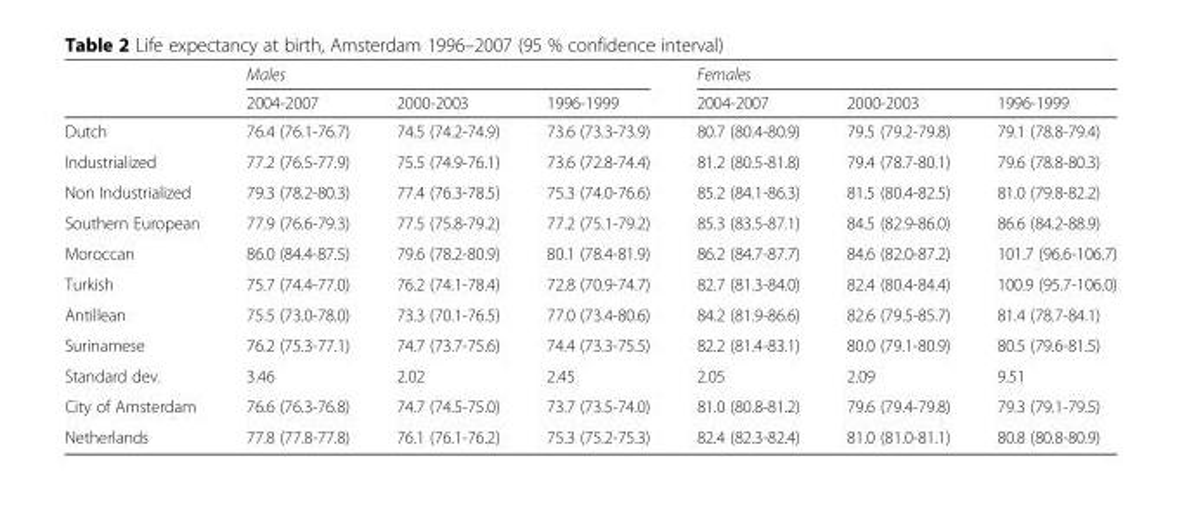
<table><thead><tr><td rowspan="2"></td><td colspan="3">Males</td><td colspan="3">Females</td></tr><tr><td>2004-2007</td><td>2000-2003</td><td>1996-1999</td><td>2004-2007</td><td>2000-2003</td><td>1996-1999</td></tr></thead><tbody><tr><td>Dutch</td><td>76.4 (76.1-76.7)</td><td>74.5 (74.2-74.9)</td><td>73.6 (73.3-73.9)</td><td>80.7 (80.4-80.9)</td><td>79.5 (79.2-79.8)</td><td>79.1 (78.8-79.4)</td></tr><tr><td>Industrialized</td><td>77.2 (76.5-77.9)</td><td>75.5 (74.9-76.1)</td><td>73.6 (72.8-74.4)</td><td>81.2 (80.5-81.8)</td><td>79.4 (78.7-80.1)</td><td>79.6 (78.8-80.3)</td></tr><tr><td>Non Industrialized</td><td>79.3 (78.2-80.3)</td><td>77.4 (76.3-78.5)</td><td>75.3 (74.0-76.6)</td><td>85.2 (84.1-86.3)</td><td>81.5 (80.4-82.5)</td><td>81.0 (79.8-82.2)</td></tr><tr><td>Southern European</td><td>77.9 (76.6-79.3)</td><td>77.5 (75.8-79.2)</td><td>77.2 (75.1-79.2)</td><td>85.3 (83.5-87.1)</td><td>84.5 (82.9-86.0)</td><td>86.6 (84.2-88.9)</td></tr><tr><td>Moroccan</td><td>86.0 (84.4-87.5)</td><td>79.6 (78.2-80.9)</td><td>80.1 (78.4-81.9)</td><td>86.2 (84.7-87.7)</td><td>84.6 (82.0-87.2)</td><td>101.7 (96.6-106.7)</td></tr><tr><td>Turkish</td><td>75.7 (74.4-77.0)</td><td>76.2 (74.1-78.4)</td><td>72.8 (70.9-74.7)</td><td>82.7 (81.3-84.0)</td><td>82.4 (80.4-84.4)</td><td>100.9 (95.7-106.0)</td></tr><tr><td>Antillean</td><td>75.5 (73.0-78.0)</td><td>73.3 (70.1-76.5)</td><td>77.0 (73.4-80.6)</td><td>84.2 (81.9-86.6)</td><td>82.6 (79.5-85.7)</td><td>81.4 (78.7-84.1)</td></tr><tr><td>Surinamese</td><td>76.2 (75.3-77.1)</td><td>74.7 (73.7-75.6)</td><td>74.4 (73.3-75.5)</td><td>82.2 (81.4-83.1)</td><td>80.0 (79.1-80.9)</td><td>80.5 (79.6-81.5)</td></tr><tr><td>Standard dev.</td><td>3.46</td><td>2.02</td><td>2.45</td><td>2.05</td><td>2.09</td><td>9.51</td></tr><tr><td>City of Amsterdam</td><td>76.6 (76.3-76.8)</td><td>74.7 (74.5-75.0)</td><td>73.7 (73.5-74.0)</td><td>81.0 (80.8-81.2)</td><td>79.6 (79.4-79.8)</td><td>79.3 (79.1-79.5)</td></tr><tr><td>Netherlands</td><td>77.8 (77.8-77.8)</td><td>76.1 (76.1-76.2)</td><td>75.3 (75.2-75.3)</td><td>82.4 (82.3-82.4)</td><td>81.0 (81.0-81.1)</td><td>80.8 (80.8-80.9)</td></tr></tbody></table>